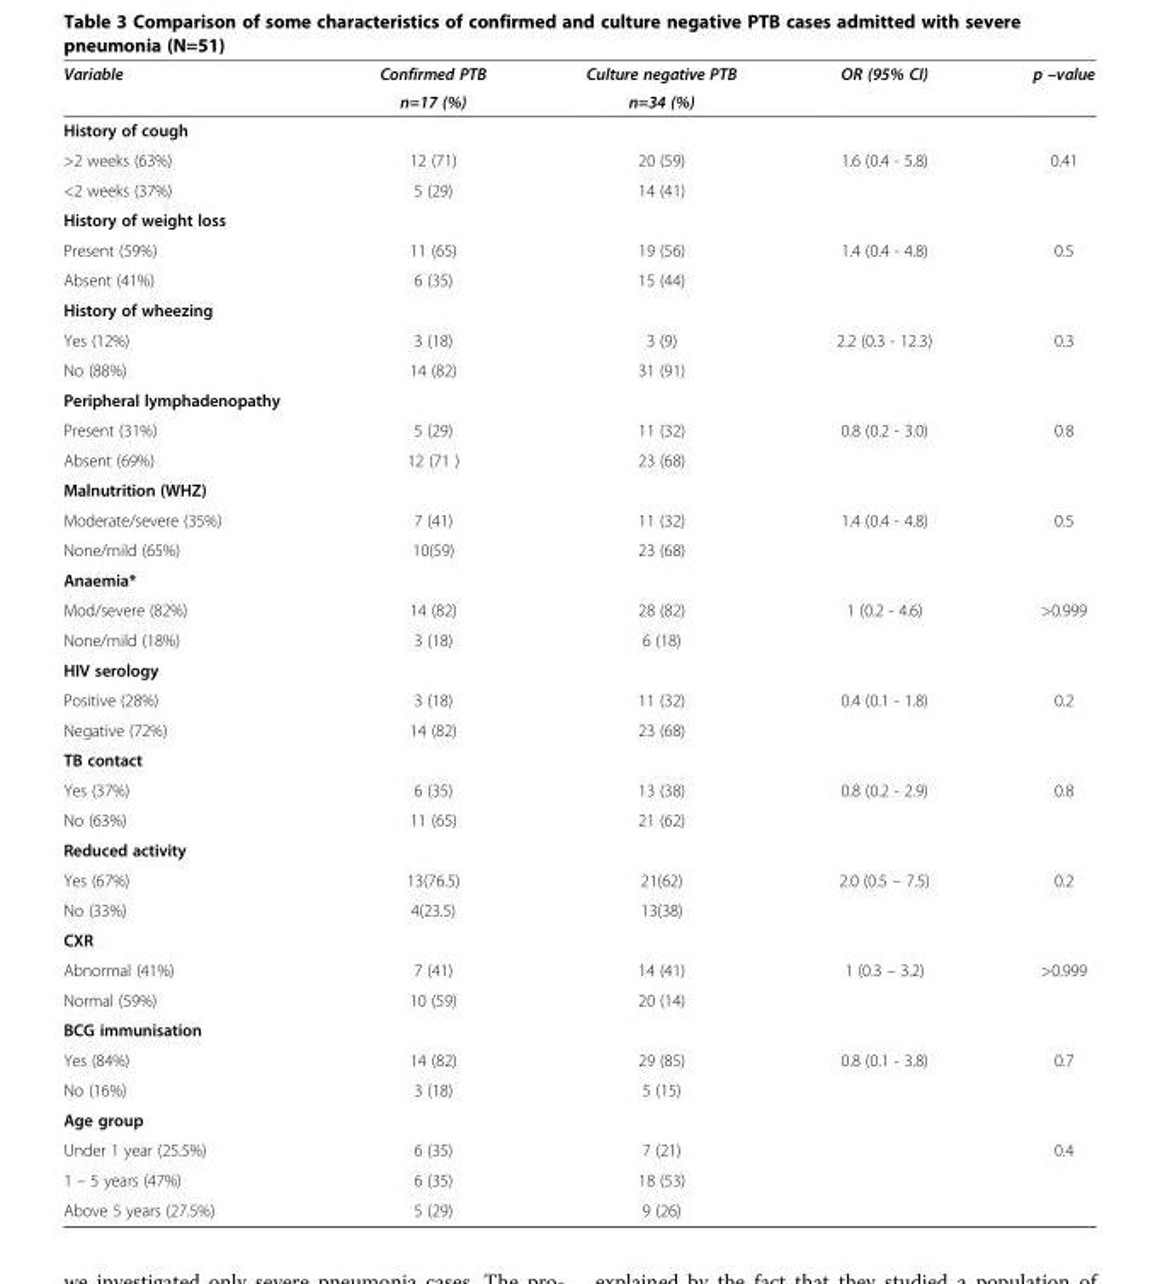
<table><thead><tr><td rowspan="2">Variable</td><td rowspan="2">Confirmed PTB n=17 (%)</td><td rowspan="2">Culture negative PTB n=34 (%)</td><td rowspan="2">OR (95% CI)</td><td rowspan="2">p –value</td></tr><tr></tr></thead><tbody><tr><td colspan="5">History of cough</td></tr><tr><td>&gt;2 weeks (63%)</td><td>12 (71)</td><td>20 (59)</td><td rowspan="2">1.6 (0.4 - 5.8)</td><td rowspan="2">0.41</td></tr><tr><td>&lt;2 weeks (37%)</td><td>5 (29)</td><td>14 (41)</td></tr><tr><td colspan="5">History of weight loss</td></tr><tr><td>Present (59%)</td><td>11 (65)</td><td>19 (56)</td><td rowspan="2">1.4 (0.4 - 4.8)</td><td rowspan="2">0.5</td></tr><tr><td>Absent (41%)</td><td>6 (35)</td><td>15 (44)</td></tr><tr><td colspan="5">History of wheezing</td></tr><tr><td>Yes (12%)</td><td>3 (18)</td><td>3 (9)</td><td rowspan="2">2.2 (0.3 - 12.3)</td><td rowspan="2">0.3</td></tr><tr><td>No (88%)</td><td>14 (82)</td><td>31 (91)</td></tr><tr><td colspan="5">Peripheral lymphadenopathy</td></tr><tr><td>Present (31%)</td><td>5 (29)</td><td>11 (32)</td><td rowspan="2">0.8 (0.2 - 3.0)</td><td rowspan="2">0.8</td></tr><tr><td>Absent (69%)</td><td>12 (71 )</td><td>23 (68)</td></tr><tr><td colspan="5">Malnutrition (WHZ)</td></tr><tr><td>Moderate/severe (35%)</td><td>7 (41)</td><td>11 (32)</td><td rowspan="2">1.4 (0.4 - 4.8)</td><td rowspan="2">0.5</td></tr><tr><td>None/mild (65%)</td><td>10(59)</td><td>23 (68)</td></tr><tr><td colspan="5">Anaemia*</td></tr><tr><td>Mod/severe (82%)</td><td>14 (82)</td><td>28 (82)</td><td rowspan="2">1 (0.2 - 4.6)</td><td rowspan="2">&gt;0.999</td></tr><tr><td>None/mild (18%)</td><td>3 (18)</td><td>6 (18)</td></tr><tr><td colspan="5">HIV serology</td></tr><tr><td>Positive (28%)</td><td>3 (18)</td><td>11 (32)</td><td rowspan="2">0.4 (0.1 - 1.8)</td><td rowspan="2">0.2</td></tr><tr><td>Negative (72%)</td><td>14 (82)</td><td>23 (68)</td></tr><tr><td colspan="5">TB contact</td></tr><tr><td>Yes (37%)</td><td>6 (35)</td><td>13 (38)</td><td rowspan="2">0.8 (0.2 - 2.9)</td><td rowspan="2">0.8</td></tr><tr><td>No (63%)</td><td>11 (65)</td><td>21 (62)</td></tr><tr><td colspan="5">Reduced activity</td></tr><tr><td>Yes (67%)</td><td>13(76.5)</td><td>21(62)</td><td rowspan="2">2.0 (0.5 – 7.5)</td><td rowspan="2">0.2</td></tr><tr><td>No (33%)</td><td>4(23.5)</td><td>13(38)</td></tr><tr><td colspan="5">CXR</td></tr><tr><td>Abnormal (41%)</td><td>7 (41)</td><td>14 (41)</td><td>1 (0.3 – 3.2)</td><td>&gt;0.999</td></tr><tr><td>Normal (59%)</td><td>10 (59)</td><td>20 (14)</td><td></td><td></td></tr><tr><td colspan="5">BCG immunisation</td></tr><tr><td>Yes (84%)</td><td>14 (82)</td><td>29 (85)</td><td rowspan="2">0.8 (0.1 - 3.8)</td><td rowspan="2">0.7</td></tr><tr><td>No (16%)</td><td>3 (18)</td><td>5 (15)</td></tr><tr><td colspan="5">Age group</td></tr><tr><td>Under 1 year (25.5%)</td><td>6 (35)</td><td>7 (21)</td><td></td><td rowspan="2">0.4</td></tr><tr><td>1 – 5 years (47%)</td><td>6 (35)</td><td>18 (53)</td><td></td></tr><tr><td>Above 5 years (27.5%)</td><td>5 (29)</td><td>9 (26)</td><td></td><td></td></tr></tbody></table>